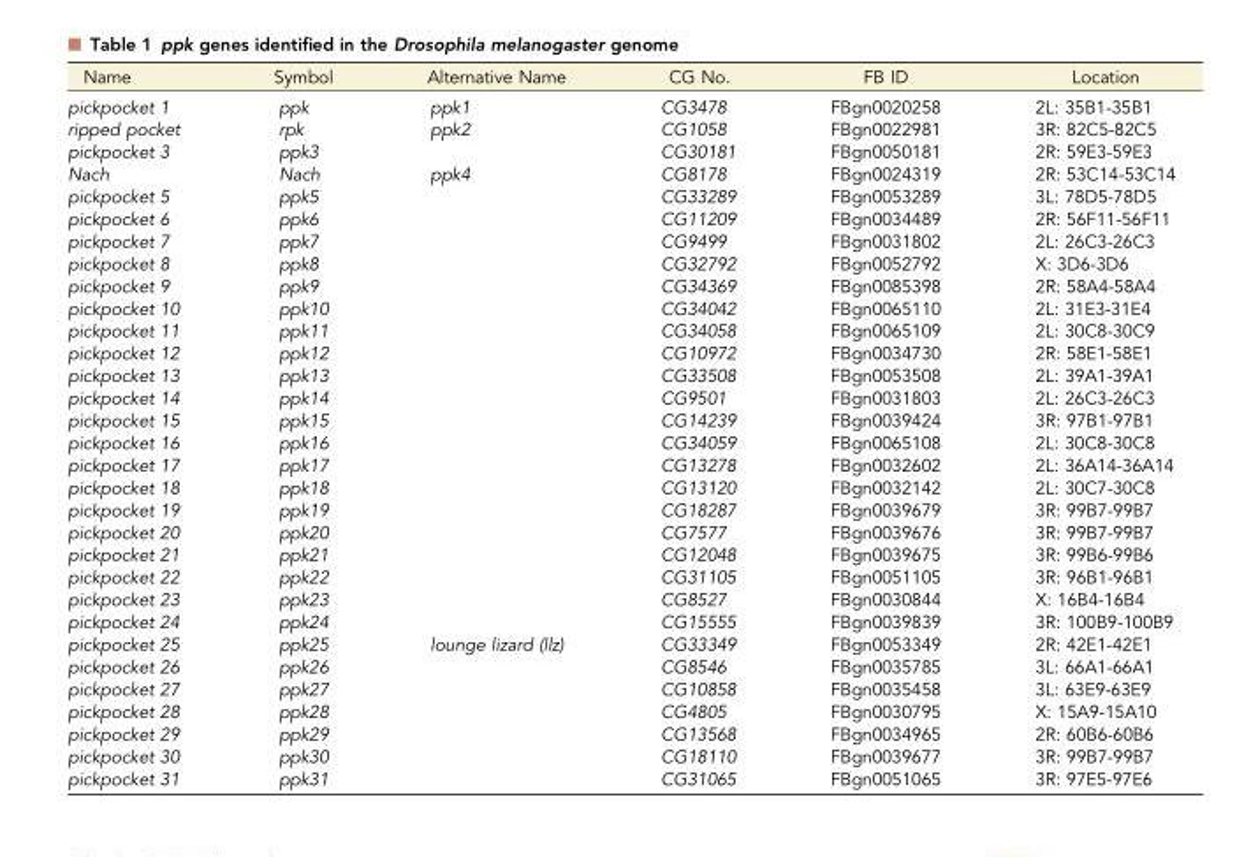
<table><thead><tr><td>Name</td><td>Symbol</td><td>Alternative Name</td><td>CG No.</td><td>FB ID</td><td>Location</td></tr></thead><tbody><tr><td>pickpocket 1</td><td>ppk</td><td>ppk1</td><td>CG3478</td><td>FBgn0020258</td><td>2L: 35B1-35B1</td></tr><tr><td>ripped pocket</td><td>rpk</td><td>ppk2</td><td>CG1058</td><td>FBgn0022981</td><td>3R: 82C5-82C5</td></tr><tr><td>pickpocket 3</td><td>ppk3</td><td></td><td>CG30181</td><td>FBgn0050181</td><td>2R: 59E3-59E3</td></tr><tr><td>Nach</td><td>Nach</td><td>ppk4</td><td>CG8178</td><td>FBgn0024319</td><td>2R: 53C14-53C14</td></tr><tr><td>pickpocket 5</td><td>ppk5</td><td></td><td>CG33289</td><td>FBgn0053289</td><td>3L: 78D5-78D5</td></tr><tr><td>pickpocket 6</td><td>ppk6</td><td></td><td>CG11209</td><td>FBgn0034489</td><td>2R: 56F11-56F11</td></tr><tr><td>pickpocket 7</td><td>ppk7</td><td></td><td>CG9499</td><td>FBgn0031802</td><td>2L: 26C3-26C3</td></tr><tr><td>pickpocket 8</td><td>ppk8</td><td></td><td>CG32792</td><td>FBgn0052792</td><td>X: 3D6-3D6</td></tr><tr><td>pickpocket 9</td><td>ppk9</td><td></td><td>CG34369</td><td>FBgn0085398</td><td>2R: 58A4-58A4</td></tr><tr><td>pickpocket 10</td><td>ppk10</td><td></td><td>CG34042</td><td>FBgn0065110</td><td>2L: 31E3-31E4</td></tr><tr><td>pickpocket 11</td><td>ppk11</td><td></td><td>CG34058</td><td>FBgn0065109</td><td>2L: 30C8-30C9</td></tr><tr><td>pickpocket 12</td><td>ppk12</td><td></td><td>CG10972</td><td>FBgn0034730</td><td>2R: 58E1-58E1</td></tr><tr><td>pickpocket 13</td><td>ppk13</td><td></td><td>CG33508</td><td>FBgn0053508</td><td>2L: 39A1-39A1</td></tr><tr><td>pickpocket 14</td><td>ppk14</td><td></td><td>CG9501</td><td>FBgn0031803</td><td>2L: 26C3-26C3</td></tr><tr><td>pickpocket 15</td><td>ppk15</td><td></td><td>CG14239</td><td>FBgn0039424</td><td>3R: 97B1-97B1</td></tr><tr><td>pickpocket 16</td><td>ppk16</td><td></td><td>CG34059</td><td>FBgn0065108</td><td>2L: 30C8-30C8</td></tr><tr><td>pickpocket 17</td><td>ppk17</td><td></td><td>CG13278</td><td>FBgn0032602</td><td>2L: 36A14-36A14</td></tr><tr><td>pickpocket 18</td><td>ppk18</td><td></td><td>CG13120</td><td>FBgn0032142</td><td>2L: 30C7-30C8</td></tr><tr><td>pickpocket 19</td><td>ppk19</td><td></td><td>CG18287</td><td>FBgn0039679</td><td>3R: 99B7-99B7</td></tr><tr><td>pickpocket 20</td><td>ppk20</td><td></td><td>CG7577</td><td>FBgn0039676</td><td>3R: 99B7-99B7</td></tr><tr><td>pickpocket 21</td><td>ppk21</td><td></td><td>CG12048</td><td>FBgn0039675</td><td>3R: 99B6-99B6</td></tr><tr><td>pickpocket 22</td><td>ppk22</td><td></td><td>CG31105</td><td>FBgn0051105</td><td>3R: 96B1-96B1</td></tr><tr><td>pickpocket 23</td><td>ppk23</td><td></td><td>CG8527</td><td>FBgn0030844</td><td>X: 16B4-16B4</td></tr><tr><td>pickpocket 24</td><td>ppk24</td><td></td><td>CG15555</td><td>FBgn0039839</td><td>3R: 100B9-100B9</td></tr><tr><td>pickpocket 25</td><td>ppk25</td><td>lounge lizard (llz)</td><td>CG33349</td><td>FBgn0053349</td><td>2R: 42E1-42E1</td></tr><tr><td>pickpocket 26</td><td>ppk26</td><td></td><td>CG8546</td><td>FBgn0035785</td><td>3L: 66A1-66A1</td></tr><tr><td>pickpocket 27</td><td>ppk27</td><td></td><td>CG10858</td><td>FBgn0035458</td><td>3L: 63E9-63E9</td></tr><tr><td>pickpocket 28</td><td>ppk28</td><td></td><td>CG4805</td><td>FBgn0030795</td><td>X: 15A9-15A10</td></tr><tr><td>pickpocket 29</td><td>ppk29</td><td></td><td>CG13568</td><td>FBgn0034965</td><td>2R: 60B6-60B6</td></tr><tr><td>pickpocket 30</td><td>ppk30</td><td></td><td>CG18110</td><td>FBgn0039677</td><td>3R: 99B7-99B7</td></tr><tr><td>pickpocket 31</td><td>ppk31</td><td></td><td>CG31065</td><td>FBgn0051065</td><td>3R: 97E5-97E6</td></tr></tbody></table>